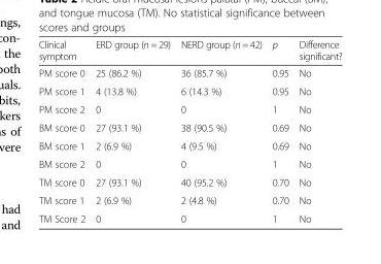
<table><thead><tr><td>Clinical symptom</td><td>ERD group (n = 29)</td><td>NERD group (n = 42)</td><td>p</td><td>Difference significant?</td></tr></thead><tbody><tr><td>PM score 0</td><td>25 (86.2 %)</td><td>36 (85.7 %)</td><td>0.95</td><td>No</td></tr><tr><td>PM score 1</td><td>4 (13.8 %)</td><td>6 (14.3 %)</td><td>0.95</td><td>No</td></tr><tr><td>PM score 2</td><td>0</td><td>0</td><td>1</td><td>No</td></tr><tr><td>BM score 0</td><td>27 (93.1 %)</td><td>38 (90.5 %)</td><td>0.69</td><td>No</td></tr><tr><td>BM score 1</td><td>2 (6.9 %)</td><td>4 (9.5 %)</td><td>0.69</td><td>No</td></tr><tr><td>BM score 2</td><td>0</td><td>0</td><td>1</td><td>No</td></tr><tr><td>TM score 0</td><td>27 (93.1 %)</td><td>40 (95.2 %)</td><td>0.70</td><td>No</td></tr><tr><td>TM score 1</td><td>2 (6.9 %)</td><td>2 (4.8 %)</td><td>0.70</td><td>No</td></tr><tr><td>TM Score 2</td><td>0</td><td>0</td><td>1</td><td>No</td></tr></tbody></table>